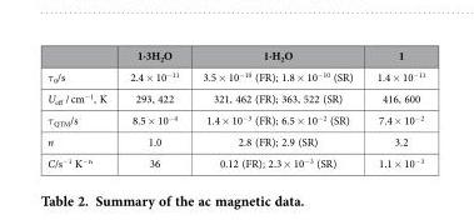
<table><thead><tr><td></td><td>1·3H<sub>2</sub>O</td><td>1·H<sub>2</sub>O</td><td>1</td></tr></thead><tbody><tr><td>τ <sub>0</sub>/s</td><td>2.4 × 10<sup>−11</sup></td><td>3.5 × 10<sup>−10</sup> (FR); 1.8 × 10<sup>−10</sup> (SR)</td><td>1.4 × 10<sup>−11</sup></td></tr><tr><td>U<sub>eff</sub> / cm<sup>−1</sup>, K</td><td>293, 422</td><td>321, 462 (FR); 363, 522 (SR)</td><td>416, 600</td></tr><tr><td>τ <sub>QTM</sub>/s</td><td>8.5 × 10<sup>−4</sup></td><td>1.4 × 10<sup>−3</sup> (FR); 6.5 × 10<sup>−2</sup> (SR)</td><td>7.4 × 10<sup>−2</sup></td></tr><tr><td>n</td><td>1.0</td><td>2.8 (FR); 2.9 (SR)</td><td>3.2</td></tr><tr><td>C/s<sup>−1</sup> K<sup>−n</sup></td><td>36</td><td>0.12 (FR); 2.3 × 10<sup>−3</sup> (SR)</td><td>1.1 × 10<sup>−3</sup></td></tr></tbody></table>